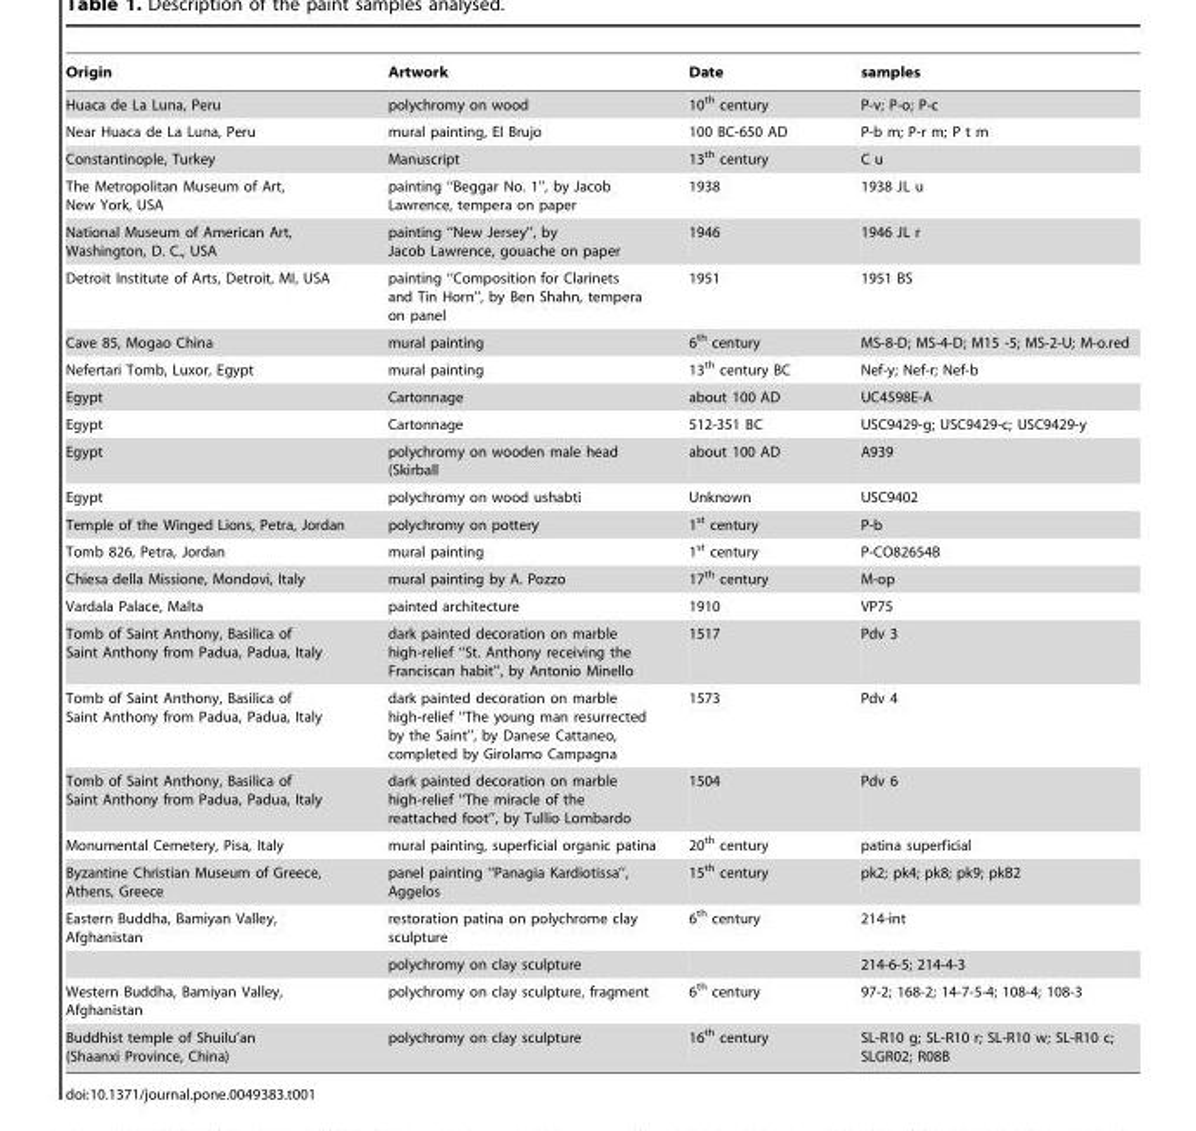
<table><thead><tr><td>Origin</td><td>Artwork</td><td>Date</td><td>samples</td></tr></thead><tbody><tr><td>Huaca de La Luna, Peru</td><td>polychromy on wood</td><td>10<sup>th</sup> century</td><td>P-v; P-o; P-c</td></tr><tr><td>Near Huaca de La Luna, Peru</td><td>mural painting, El Brujo</td><td>100 BC-650 AD</td><td>P-b m; P-r m; P t m</td></tr><tr><td>Constantinople, Turkey</td><td>Manuscript</td><td>13<sup>th</sup> century</td><td>C u</td></tr><tr><td>The Metropolitan Museum of Art, New York, USA</td><td>painting ‘‘Beggar No. 1’’, by Jacob Lawrence, tempera on paper</td><td>1938</td><td>1938 JL u</td></tr><tr><td>National Museum of American Art, Washington, D. C., USA</td><td>painting ‘‘New Jersey’’, by Jacob Lawrence, gouache on paper</td><td>1946</td><td>1946 JL r</td></tr><tr><td>Detroit Institute of Arts, Detroit, MI, USA</td><td>painting ‘‘Composition for Clarinets and Tin Horn’’, by Ben Shahn, tempera on panel</td><td>1951</td><td>1951 BS</td></tr><tr><td>Cave 85, Mogao China</td><td>mural painting</td><td>6<sup>th</sup> century</td><td>MS-8-D; MS-4-D; M15 -5; MS-2-U; M-o.red</td></tr><tr><td>Nefertari Tomb, Luxor, Egypt</td><td>mural painting</td><td>13<sup>th</sup> century BC</td><td>Nef-y; Nef-r; Nef-b</td></tr><tr><td>Egypt</td><td>Cartonnage</td><td>about 100 AD</td><td>UC4598E-A</td></tr><tr><td>Egypt</td><td>Cartonnage</td><td>512-351 BC</td><td>USC9429-g; USC9429-c; USC9429-y</td></tr><tr><td>Egypt</td><td>polychromy on wooden male head (Skirball</td><td>about 100 AD</td><td>A939</td></tr><tr><td>Egypt</td><td>polychromy on wood ushabti</td><td>Unknown</td><td>USC9402</td></tr><tr><td>Temple of the Winged Lions, Petra, Jordan</td><td>polychromy on pottery</td><td>1<sup>st</sup> century</td><td>P-b</td></tr><tr><td>Tomb 826, Petra, Jordan</td><td>mural painting</td><td>1<sup>st</sup> century</td><td>P-CO82654B</td></tr><tr><td>Chiesa della Missione, Mondovi, Italy</td><td>mural painting by A. Pozzo</td><td>17<sup>th</sup> century</td><td>M-op</td></tr><tr><td>Vardala Palace, Malta</td><td>painted architecture</td><td>1910</td><td>VP75</td></tr><tr><td>Tomb of Saint Anthony, Basilica of Saint Anthony from Padua, Padua, Italy</td><td>dark painted decoration on marble high-relief ‘‘St. Anthony receiving the Franciscan habit’’, by Antonio Minello</td><td>1517</td><td>Pdv 3</td></tr><tr><td>Tomb of Saint Anthony, Basilica of Saint Anthony from Padua, Padua, Italy</td><td>dark painted decoration on marble high-relief ‘‘The young man resurrected by the Saint’’, by Danese Cattaneo, completed by Girolamo Campagna</td><td>1573</td><td>Pdv 4</td></tr><tr><td>Tomb of Saint Anthony, Basilica of Saint Anthony from Padua, Padua, Italy</td><td>dark painted decoration on marble high-relief ‘‘The miracle of the reattached foot’’, by Tullio Lombardo</td><td>1504</td><td>Pdv 6</td></tr><tr><td>Monumental Cemetery, Pisa, Italy</td><td>mural painting, superficial organic patina</td><td>20<sup>th</sup> century</td><td>patina superficial</td></tr><tr><td>Byzantine Christian Museum of Greece, Athens, Greece</td><td>panel painting ‘‘Panagia Kardiotissa’’, Aggelos</td><td>15<sup>th</sup> century</td><td>pk2; pk4; pk8; pk9; pkB2</td></tr><tr><td rowspan="2">Eastern Buddha, Bamiyan Valley, Afghanistan</td><td>restoration patina on polychrome clay sculpture</td><td>6<sup>th</sup> century</td><td>214-int</td></tr><tr><td>polychromy on clay sculpture</td><td></td><td>214-6-5; 214-4-3</td></tr><tr><td>Western Buddha, Bamiyan Valley, Afghanistan</td><td>polychromy on clay sculpture, fragment</td><td>6<sup>th</sup> century</td><td>97-2; 168-2; 14-7-5-4; 108-4; 108-3</td></tr><tr><td>Buddhist temple of Shuilu’an (Shaanxi Province, China)</td><td>polychromy on clay sculpture</td><td>16<sup>th</sup> century</td><td>SL-R10 g; SL-R10 r; SL-R10 w; SL-R10 c; SLGR02; R08B</td></tr></tbody></table>